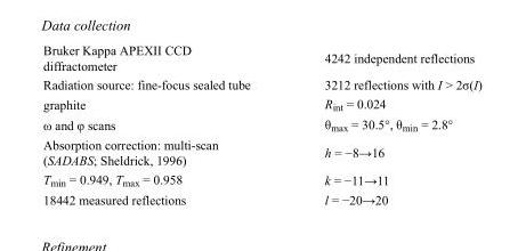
<table><tbody><tr><td>Bruker Kappa APEXII CCD diffractometer</td><td>4242 independent reflections</td></tr><tr><td>Radiation source: fine-focus sealed tube</td><td>3212 reflections with I &gt; 2σ(I)</td></tr><tr><td>graphite</td><td>R<sub>int</sub> = 0.024</td></tr><tr><td>ω and φ scans</td><td>θ<sub>max</sub> = 30.5°, θ<sub>min</sub> = 2.8°</td></tr><tr><td>Absorption correction: multi-scan (SADABS; Sheldrick, 1996)</td><td>h = −8→16</td></tr><tr><td>T<sub>min</sub> = 0.949, T<sub>max</sub> = 0.958</td><td>k = −11→11</td></tr><tr><td>18442 measured reflections</td><td>l = −20→20</td></tr></tbody></table>